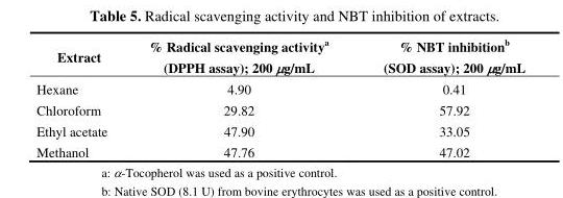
<table><thead><tr><td>Extract</td><td>% Radical scavenging activity<sup>a</sup> (DPPH assay); 200 μg/mL</td><td>% NBT inhibition<sup>b</sup> (SOD assay); 200 μg/mL</td></tr></thead><tbody><tr><td>Hexane</td><td>4.90</td><td>0.41</td></tr><tr><td>Chloroform</td><td>29.82</td><td>57.92</td></tr><tr><td>Ethyl acetate</td><td>47.90</td><td>33.05</td></tr><tr><td>Methanol</td><td>47.76</td><td>47.02</td></tr></tbody></table>